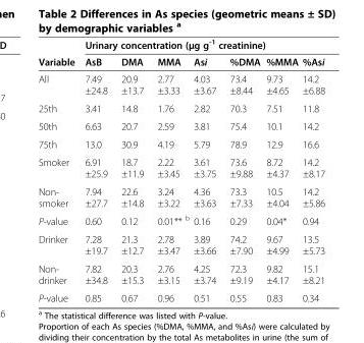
<table><thead><tr><td rowspan="2">Variable</td><td colspan="7">Urinary concentration (μg g<sup>-1</sup> creatinine)</td></tr><tr><td>AsB</td><td>DMA</td><td>MMA</td><td>Asi</td><td>%DMA</td><td>%MMA</td><td>%Asi</td></tr></thead><tbody><tr><td>All</td><td>7.49 ±24.8</td><td>20.9 ±13.7</td><td>2.77 ±3.33</td><td>4.03 ±3.67</td><td>73.4 ±8.44</td><td>9.73 ±4.65</td><td>14.2 ±6.88</td></tr><tr><td>25th</td><td>3.41</td><td>14.8</td><td>1.76</td><td>2.82</td><td>70.3</td><td>7.51</td><td>11.8</td></tr><tr><td>50th</td><td>6.63</td><td>20.7</td><td>2.59</td><td>3.81</td><td>75.4</td><td>10.1</td><td>14.2</td></tr><tr><td>75th</td><td>13.0</td><td>30.9</td><td>4.19</td><td>5.79</td><td>78.9</td><td>12.9</td><td>16.6</td></tr><tr><td>Smoker</td><td>6.91 ±25.9</td><td>18.7 ±11.9</td><td>2.22 ±3.45</td><td>3.61 ±3.75</td><td>73.6 ±9.88</td><td>8.72 ±4.37</td><td>14.2 ±8.17</td></tr><tr><td>Non- smoker</td><td>7.94 ±27.7</td><td>22.6 ±14.8</td><td>3.24 ±3.22</td><td>4.36 ±3.63</td><td>73.3 ±7.33</td><td>10.5 ±4.04</td><td>14.2 ±5.86</td></tr><tr><td>P-value</td><td>0.60</td><td>0.12</td><td>0.01** <sup>b</sup></td><td>0.16</td><td>0.29</td><td>0.04*</td><td>0.94</td></tr><tr><td>Drinker</td><td>7.28 ±19.7</td><td>21.3 ±12.7</td><td>2.78 ±3.47</td><td>3.89 ±3.66</td><td>74.2 ±7.90</td><td>9.67 ±4.99</td><td>13.5 ±5.73</td></tr><tr><td>Non- drinker</td><td>7.82 ±34.8</td><td>20.3 ±15.3</td><td>2.76 ±3.15</td><td>4.25 ±3.74</td><td>72.3 ±9.19</td><td>9.82 ±4.17</td><td>15.1 ±8.21</td></tr><tr><td>P-value</td><td>0.85</td><td>0.67</td><td>0.96</td><td>0.51</td><td>0.55</td><td>0.83</td><td>0.34</td></tr></tbody></table>